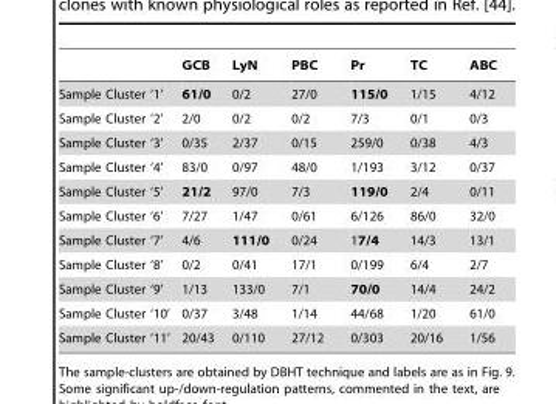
<table><thead><tr><td></td><td>GCB</td><td>LyN</td><td>PBC</td><td>Pr</td><td>TC</td><td>ABC</td></tr></thead><tbody><tr><td>Sample Cluster ‘1’</td><td>61/0</td><td>0/2</td><td>27/0</td><td>115/0</td><td>1/15</td><td>4/12</td></tr><tr><td>Sample Cluster ‘2’</td><td>2/0</td><td>0/2</td><td>0/2</td><td>7/3</td><td>0/1</td><td>0/3</td></tr><tr><td>Sample Cluster ‘3’</td><td>0/35</td><td>2/37</td><td>0/15</td><td>259/0</td><td>0/38</td><td>4/3</td></tr><tr><td>Sample Cluster ‘4’</td><td>83/0</td><td>0/97</td><td>48/0</td><td>1/193</td><td>3/12</td><td>0/37</td></tr><tr><td>Sample Cluster ‘5’</td><td>21/2</td><td>97/0</td><td>7/3</td><td>119/0</td><td>2/4</td><td>0/11</td></tr><tr><td>Sample Cluster ‘6’</td><td>7/27</td><td>1/47</td><td>0/61</td><td>6/126</td><td>86/0</td><td>32/0</td></tr><tr><td>Sample Cluster ‘7’</td><td>4/6</td><td>111/0</td><td>0/24</td><td>17/4</td><td>14/3</td><td>13/1</td></tr><tr><td>Sample Cluster ‘8’</td><td>0/2</td><td>0/41</td><td>17/1</td><td>0/199</td><td>6/4</td><td>2/7</td></tr><tr><td>Sample Cluster ‘9’</td><td>1/13</td><td>133/0</td><td>7/1</td><td>70/0</td><td>14/4</td><td>24/2</td></tr><tr><td>Sample Cluster ‘10’</td><td>0/37</td><td>3/48</td><td>1/14</td><td>44/68</td><td>1/20</td><td>61/0</td></tr><tr><td>Sample Cluster ‘11’</td><td>20/43</td><td>0/110</td><td>27/12</td><td>0/303</td><td>20/16</td><td>1/56</td></tr></tbody></table>